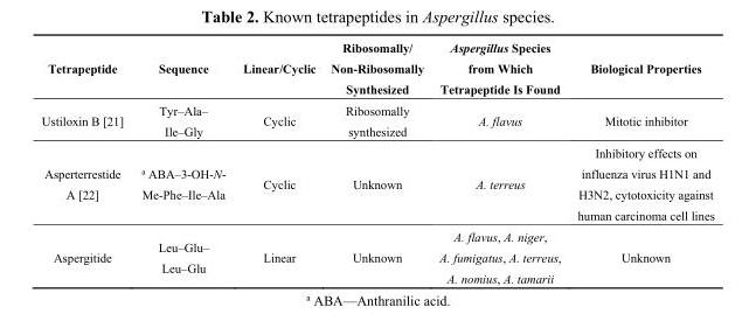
<table><thead><tr><td>Tetrapeptide</td><td>Sequence</td><td>Linear/Cyclic</td><td>Ribosomally/ Non-Ribosomally Synthesized</td><td>Aspergillus Species from Which Tetrapeptide Is Found</td><td>Biological Properties</td></tr></thead><tbody><tr><td>Ustiloxin B [21]</td><td>Tyr–Ala– Ile–Gly</td><td>Cyclic</td><td>Ribosomally synthesized</td><td>A. flavus</td><td>Mitotic inhibitor</td></tr><tr><td>Asperterrestide A [22]</td><td><sup>a</sup> ABA–3-OH-N- Me-Phe–Ile–Ala</td><td>Cyclic</td><td>Unknown</td><td>A. terreus</td><td>Inhibitory effects on influenza virus H1N1 and H3N2, cytotoxicity against human carcinoma cell lines</td></tr><tr><td>Aspergitide</td><td>Leu–Glu– Leu–Glu</td><td>Linear</td><td>Unknown</td><td>A. flavus, A. niger, A. fumigatus, A. terreus, A. nomius, A. tamarii</td><td>Unknown</td></tr></tbody></table>